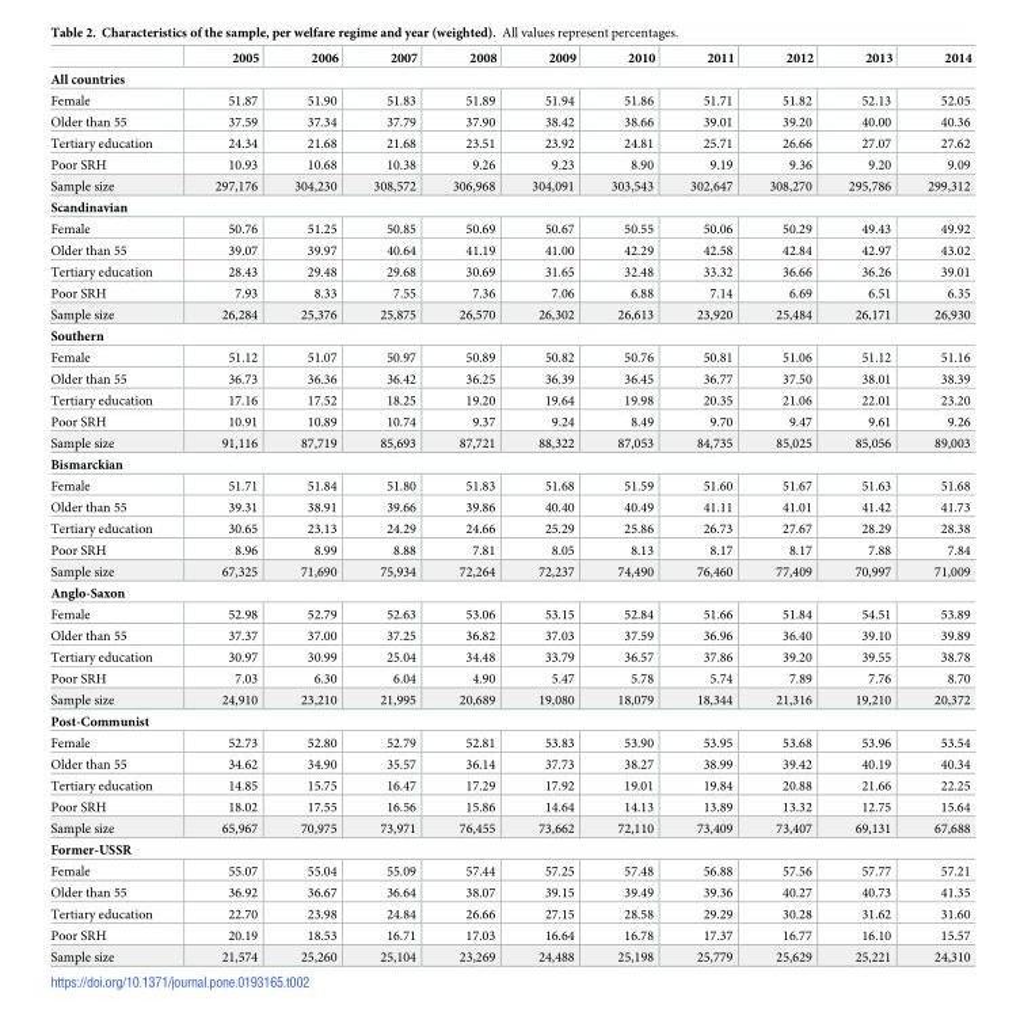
<table><thead><tr><td></td><td>2005</td><td>2006</td><td>2007</td><td>2008</td><td>2009</td><td>2010</td><td>2011</td><td>2012</td><td>2013</td><td>2014</td></tr></thead><tbody><tr><td colspan="11">All countries</td></tr><tr><td>Female</td><td>51.87</td><td>51.90</td><td>51.83</td><td>51.89</td><td>51.94</td><td>51.86</td><td>51.71</td><td>51.82</td><td>52.13</td><td>52.05</td></tr><tr><td>Older than 55</td><td>37.59</td><td>37.34</td><td>37.79</td><td>37.90</td><td>38.42</td><td>38.66</td><td>39.01</td><td>39.20</td><td>40.00</td><td>40.36</td></tr><tr><td>Tertiary education</td><td>24.34</td><td>21.68</td><td>21.68</td><td>23.51</td><td>23.92</td><td>24.81</td><td>25.71</td><td>26.66</td><td>27.07</td><td>27.62</td></tr><tr><td>Poor SRH</td><td>10.93</td><td>10.68</td><td>10.38</td><td>9.26</td><td>9.23</td><td>8.90</td><td>9.19</td><td>9.36</td><td>9.20</td><td>9.09</td></tr><tr><td>Sample size</td><td>297,176</td><td>304,230</td><td>308,572</td><td>306,968</td><td>304,091</td><td>303,543</td><td>302,647</td><td>308,270</td><td>295,786</td><td>299,312</td></tr><tr><td colspan="11">Scandinavian</td></tr><tr><td>Female</td><td>50.76</td><td>51.25</td><td>50.85</td><td>50.69</td><td>50.67</td><td>50.55</td><td>50.06</td><td>50.29</td><td>49.43</td><td>49.92</td></tr><tr><td>Older than 55</td><td>39.07</td><td>39.97</td><td>40.64</td><td>41.19</td><td>41.00</td><td>42.29</td><td>42.58</td><td>42.84</td><td>42.97</td><td>43.02</td></tr><tr><td>Tertiary education</td><td>28.43</td><td>29.48</td><td>29.68</td><td>30.69</td><td>31.65</td><td>32.48</td><td>33.32</td><td>36.66</td><td>36.26</td><td>39.01</td></tr><tr><td>Poor SRH</td><td>7.93</td><td>8.33</td><td>7.55</td><td>7.36</td><td>7.06</td><td>6.88</td><td>7.14</td><td>6.69</td><td>6.51</td><td>6.35</td></tr><tr><td>Sample size</td><td>26,284</td><td>25,376</td><td>25,875</td><td>26,570</td><td>26,302</td><td>26,613</td><td>23,920</td><td>25,484</td><td>26,171</td><td>26,930</td></tr><tr><td colspan="11">Southern</td></tr><tr><td>Female</td><td>51.12</td><td>51.07</td><td>50.97</td><td>50.89</td><td>50.82</td><td>50.76</td><td>50.81</td><td>51.06</td><td>51.12</td><td>51.16</td></tr><tr><td>Older than 55</td><td>36.73</td><td>36.36</td><td>36.42</td><td>36.25</td><td>36.39</td><td>36.45</td><td>36.77</td><td>37.50</td><td>38.01</td><td>38.39</td></tr><tr><td>Tertiary education</td><td>17.16</td><td>17.52</td><td>18.25</td><td>19.20</td><td>19.64</td><td>19.98</td><td>20.35</td><td>21.06</td><td>22.01</td><td>23.20</td></tr><tr><td>Poor SRH</td><td>10.91</td><td>10.89</td><td>10.74</td><td>9.37</td><td>9.24</td><td>8.49</td><td>9.70</td><td>9.47</td><td>9.61</td><td>9.26</td></tr><tr><td>Sample size</td><td>91,116</td><td>87,719</td><td>85,693</td><td>87,721</td><td>88,322</td><td>87,053</td><td>84,735</td><td>85,025</td><td>85,056</td><td>89,003</td></tr><tr><td colspan="11">Bismarckian</td></tr><tr><td>Female</td><td>51.71</td><td>51.84</td><td>51.80</td><td>51.83</td><td>51.68</td><td>51.59</td><td>51.60</td><td>51.67</td><td>51.63</td><td>51.68</td></tr><tr><td>Older than 55</td><td>39.31</td><td>38.91</td><td>39.66</td><td>39.86</td><td>40.40</td><td>40.49</td><td>41.11</td><td>41.01</td><td>41.42</td><td>41.73</td></tr><tr><td>Tertiary education</td><td>30.65</td><td>23.13</td><td>24.29</td><td>24.66</td><td>25.29</td><td>25.86</td><td>26.73</td><td>27.67</td><td>28.29</td><td>28.38</td></tr><tr><td>Poor SRH</td><td>8.96</td><td>8.99</td><td>8.88</td><td>7.81</td><td>8.05</td><td>8.13</td><td>8.17</td><td>8.17</td><td>7.88</td><td>7.84</td></tr><tr><td>Sample size</td><td>67,325</td><td>71,690</td><td>75,934</td><td>72,264</td><td>72,237</td><td>74,490</td><td>76,460</td><td>77,409</td><td>70,997</td><td>71,009</td></tr><tr><td colspan="11">Anglo-Saxon</td></tr><tr><td>Female</td><td>52.98</td><td>52.79</td><td>52.63</td><td>53.06</td><td>53.15</td><td>52.84</td><td>51.66</td><td>51.84</td><td>54.51</td><td>53.89</td></tr><tr><td>Older than 55</td><td>37.37</td><td>37.00</td><td>37.25</td><td>36.82</td><td>37.03</td><td>37.59</td><td>36.96</td><td>36.40</td><td>39.10</td><td>39.89</td></tr><tr><td>Tertiary education</td><td>30.97</td><td>30.99</td><td>25.04</td><td>34.48</td><td>33.79</td><td>36.57</td><td>37.86</td><td>39.20</td><td>39.55</td><td>38.78</td></tr><tr><td>Poor SRH</td><td>7.03</td><td>6.30</td><td>6.04</td><td>4.90</td><td>5.47</td><td>5.78</td><td>5.74</td><td>7.89</td><td>7.76</td><td>8.70</td></tr><tr><td>Sample size</td><td>24,910</td><td>23,210</td><td>21,995</td><td>20,689</td><td>19,080</td><td>18,079</td><td>18,344</td><td>21,316</td><td>19,210</td><td>20,372</td></tr><tr><td colspan="11">Post-Communist</td></tr><tr><td>Female</td><td>52.73</td><td>52.80</td><td>52.79</td><td>52.81</td><td>53.83</td><td>53.90</td><td>53.95</td><td>53.68</td><td>53.96</td><td>53.54</td></tr><tr><td>Older than 55</td><td>34.62</td><td>34.90</td><td>35.57</td><td>36.14</td><td>37.73</td><td>38.27</td><td>38.99</td><td>39.42</td><td>40.19</td><td>40.34</td></tr><tr><td>Tertiary education</td><td>14.85</td><td>15.75</td><td>16.47</td><td>17.29</td><td>17.92</td><td>19.01</td><td>19.84</td><td>20.88</td><td>21.66</td><td>22.25</td></tr><tr><td>Poor SRH</td><td>18.02</td><td>17.55</td><td>16.56</td><td>15.86</td><td>14.64</td><td>14.13</td><td>13.89</td><td>13.32</td><td>12.75</td><td>15.64</td></tr><tr><td>Sample size</td><td>65,967</td><td>70,975</td><td>73,971</td><td>76,455</td><td>73,662</td><td>72,110</td><td>73,409</td><td>73,407</td><td>69,131</td><td>67,688</td></tr><tr><td colspan="11">Former-USSR</td></tr><tr><td>Female</td><td>55.07</td><td>55.04</td><td>55.09</td><td>57.44</td><td>57.25</td><td>57.48</td><td>56.88</td><td>57.56</td><td>57.77</td><td>57.21</td></tr><tr><td>Older than 55</td><td>36.92</td><td>36.67</td><td>36.64</td><td>38.07</td><td>39.15</td><td>39.49</td><td>39.36</td><td>40.27</td><td>40.73</td><td>41.35</td></tr><tr><td>Tertiary education</td><td>22.70</td><td>23.98</td><td>24.84</td><td>26.66</td><td>27.15</td><td>28.58</td><td>29.29</td><td>30.28</td><td>31.62</td><td>31.60</td></tr><tr><td>Poor SRH</td><td>20.19</td><td>18.53</td><td>16.71</td><td>17.03</td><td>16.64</td><td>16.78</td><td>17.37</td><td>16.77</td><td>16.10</td><td>15.57</td></tr><tr><td>Sample size</td><td>21,574</td><td>25,260</td><td>25,104</td><td>23,269</td><td>24,488</td><td>25,198</td><td>25,779</td><td>25,629</td><td>25,221</td><td>24,310</td></tr></tbody></table>